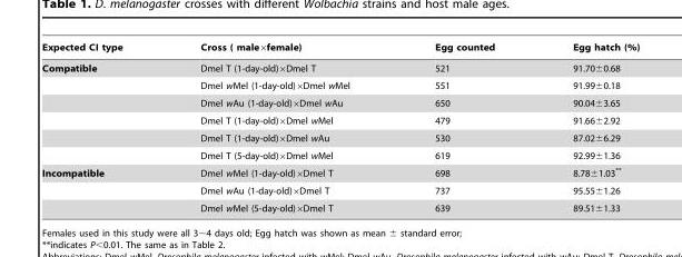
<table><thead><tr><td>Expected CI type</td><td>Cross ( male×female)</td><td>Egg counted</td><td>Egg hatch (%)</td></tr></thead><tbody><tr><td rowspan="6">Compatible</td><td>Dmel T (1-day-old)×Dmel T</td><td>521</td><td>91.70±0.68</td></tr><tr><td>Dmel wMel (1-day-old)×Dmel wMel</td><td>551</td><td>91.99±0.18</td></tr><tr><td>Dmel wAu (1-day-old)×Dmel wAu</td><td>650</td><td>90.04±3.65</td></tr><tr><td>Dmel T (1-day-old)×Dmel wMel</td><td>479</td><td>91.66±2.92</td></tr><tr><td>Dmel T (1-day-old)×Dmel wAu</td><td>530</td><td>87.02±6.29</td></tr><tr><td>Dmel T (5-day-old)×Dmel wMel</td><td>619</td><td>92.99±1.36</td></tr><tr><td rowspan="3">Incompatible</td><td>Dmel wMel (1-day-old)×Dmel T</td><td>698</td><td>8.78±1.03**</td></tr><tr><td>Dmel wAu (1-day-old)×Dmel T</td><td>737</td><td>95.55±1.26</td></tr><tr><td>Dmel wMel (5-day-old)×Dmel T</td><td>639</td><td>89.51±1.33</td></tr></tbody></table>